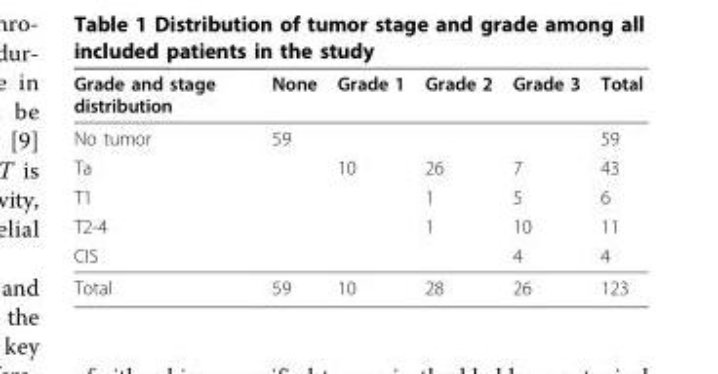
<table><thead><tr><td>Grade and stage distribution</td><td>None</td><td>Grade 1</td><td>Grade 2</td><td>Grade 3</td><td>Total</td></tr></thead><tbody><tr><td>No tumor</td><td>59</td><td></td><td></td><td></td><td>59</td></tr><tr><td>Ta</td><td></td><td>10</td><td>26</td><td>7</td><td>43</td></tr><tr><td>T1</td><td></td><td></td><td>1</td><td>5</td><td>6</td></tr><tr><td>T2-4</td><td></td><td></td><td>1</td><td>10</td><td>11</td></tr><tr><td>CIS</td><td></td><td></td><td></td><td>4</td><td>4</td></tr><tr><td>Total</td><td>59</td><td>10</td><td>28</td><td>26</td><td>123</td></tr></tbody></table>